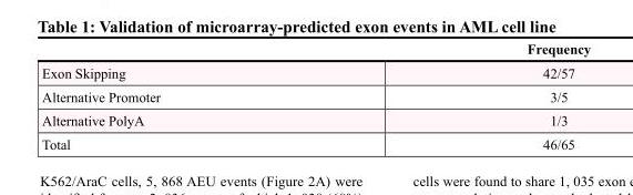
<table><thead><tr><td></td><td>Frequency</td></tr></thead><tbody><tr><td>Exon Skipping</td><td>42/57</td></tr><tr><td>Alternative Promoter</td><td>3/5</td></tr><tr><td>Alternative PolyA</td><td>1/3</td></tr><tr><td>Total</td><td>46/65</td></tr></tbody></table>